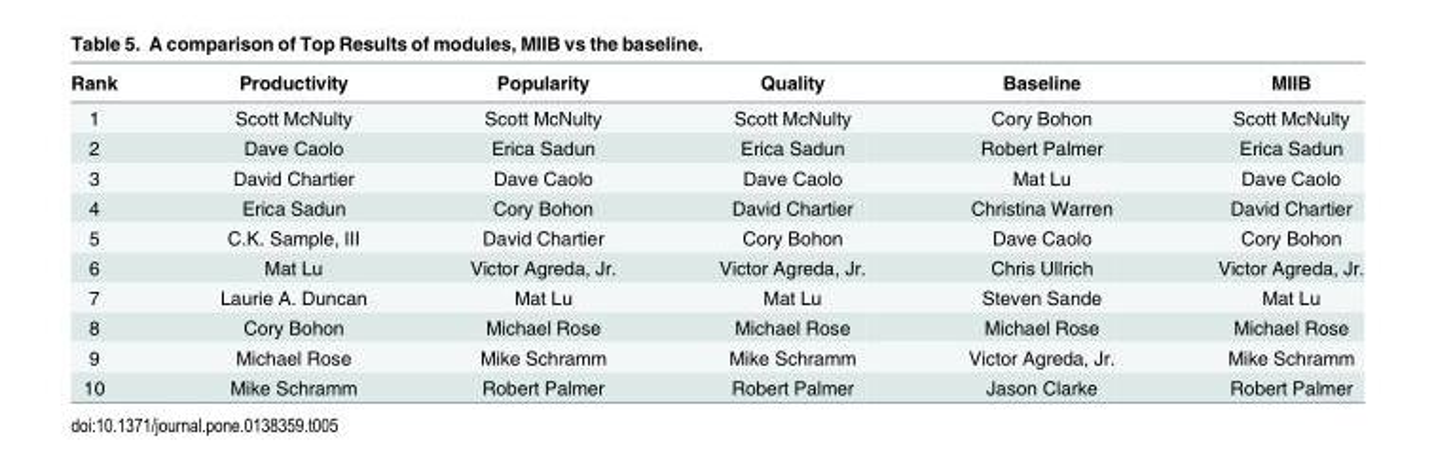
<table><thead><tr><td>Rank</td><td>Productivity</td><td>Popularity</td><td>Quality</td><td>Baseline</td><td>MIIB</td></tr></thead><tbody><tr><td>1</td><td>Scott McNulty</td><td>Scott McNulty</td><td>Scott McNulty</td><td>Cory Bohon</td><td>Scott McNulty</td></tr><tr><td>2</td><td>Dave Caolo</td><td>Erica Sadun</td><td>Erica Sadun</td><td>Robert Palmer</td><td>Erica Sadun</td></tr><tr><td>3</td><td>David Chartier</td><td>Dave Caolo</td><td>Dave Caolo</td><td>Mat Lu</td><td>Dave Caolo</td></tr><tr><td>4</td><td>Erica Sadun</td><td>Cory Bohon</td><td>David Chartier</td><td>Christina Warren</td><td>David Chartier</td></tr><tr><td>5</td><td>C.K. Sample, III</td><td>David Chartier</td><td>Cory Bohon</td><td>Dave Caolo</td><td>Cory Bohon</td></tr><tr><td>6</td><td>Mat Lu</td><td>Victor Agreda, Jr.</td><td>Victor Agreda, Jr.</td><td>Chris Ullrich</td><td>Victor Agreda, Jr.</td></tr><tr><td>7</td><td>Laurie A. Duncan</td><td>Mat Lu</td><td>Mat Lu</td><td>Steven Sande</td><td>Mat Lu</td></tr><tr><td>8</td><td>Cory Bohon</td><td>Michael Rose</td><td>Michael Rose</td><td>Michael Rose</td><td>Michael Rose</td></tr><tr><td>9</td><td>Michael Rose</td><td>Mike Schramm</td><td>Mike Schramm</td><td>Victor Agreda, Jr.</td><td>Mike Schramm</td></tr><tr><td>10</td><td>Mike Schramm</td><td>Robert Palmer</td><td>Robert Palmer</td><td>Jason Clarke</td><td>Robert Palmer</td></tr></tbody></table>